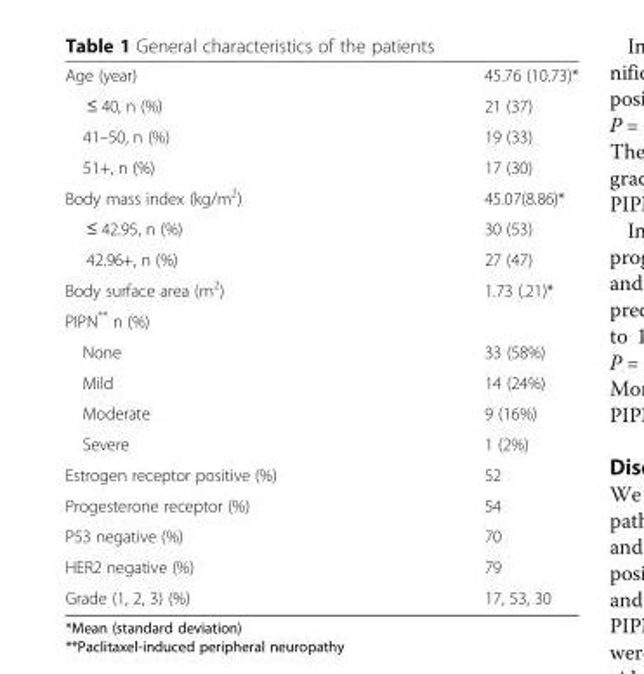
<table><tbody><tr><td>Age (year)</td><td>45.76 (10.73)*</td></tr><tr><td>≤ 40, n (%)</td><td>21 (37)</td></tr><tr><td>41–50, n (%)</td><td>19 (33)</td></tr><tr><td>51+, n (%)</td><td>17 (30)</td></tr><tr><td>Body mass index (kg/m<sup>2</sup>)</td><td>45.07(8.86)*</td></tr><tr><td>≤ 42.95, n (%)</td><td>30 (53)</td></tr><tr><td>42.96+, n (%)</td><td>27 (47)</td></tr><tr><td>Body surface area (m<sup>2</sup>)</td><td>1.73 (.21)*</td></tr><tr><td colspan="2">PIPN** n (%)</td></tr><tr><td>None</td><td>33 (58%)</td></tr><tr><td>Mild</td><td>14 (24%)</td></tr><tr><td>Moderate</td><td>9 (16%)</td></tr><tr><td>Severe</td><td>1 (2%)</td></tr><tr><td>Estrogen receptor positive (%)</td><td>52</td></tr><tr><td>Progesterone receptor (%)</td><td>54</td></tr><tr><td>P53 negative (%)</td><td>70</td></tr><tr><td>HER2 negative (%)</td><td>79</td></tr><tr><td>Grade (1, 2, 3) (%)</td><td>17, 53, 30</td></tr></tbody></table>